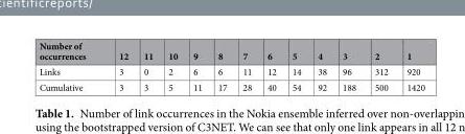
<table><thead><tr><td>Number of occurrences</td><td>12</td><td>11</td><td>10</td><td>9</td><td>8</td><td>7</td><td>6</td><td>5</td><td>4</td><td>3</td><td>2</td><td>1</td></tr></thead><tbody><tr><td>Links</td><td>3</td><td>0</td><td>2</td><td>6</td><td>6</td><td>11</td><td>12</td><td>14</td><td>38</td><td>96</td><td>312</td><td>920</td></tr><tr><td>Cumulative</td><td>3</td><td>3</td><td>5</td><td>11</td><td>17</td><td>28</td><td>40</td><td>54</td><td>92</td><td>188</td><td>500</td><td>1420</td></tr></tbody></table>